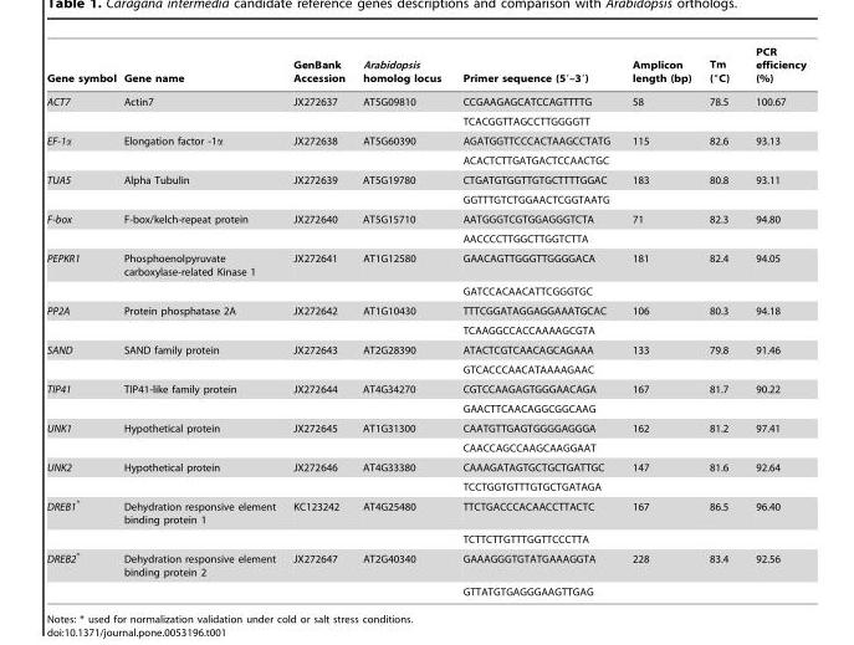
<table><thead><tr><td>Gene symbol</td><td>Gene name</td><td>GenBank Accession</td><td>Arabidopsis homolog locus</td><td>Primer sequence (5′–3′)</td><td>Amplicon length (bp)</td><td>Tm (°C)</td><td>PCR efficiency (%)</td></tr></thead><tbody><tr><td rowspan="2">ACT7</td><td>Actin7</td><td>JX272637</td><td>AT5G09810</td><td>CCGAAGAGCATCCAGTTTTG</td><td>58</td><td>78.5</td><td>100.67</td></tr><tr><td></td><td></td><td></td><td>TCACGGTTAGCCTTGGGGTT</td><td></td><td></td><td></td></tr><tr><td rowspan="2">EF-1α</td><td>Elongation factor -1α</td><td>JX272638</td><td>AT5G60390</td><td>AGATGGTTCCCACTAAGCCTATG</td><td>115</td><td>82.6</td><td>93.13</td></tr><tr><td></td><td></td><td></td><td>ACACTCTTGATGACTCCAACTGC</td><td></td><td></td><td></td></tr><tr><td rowspan="2">TUA5</td><td>Alpha Tubulin</td><td>JX272639</td><td>AT5G19780</td><td>CTGATGTGGTTGTGCTTTTGGAC</td><td>183</td><td>80.8</td><td>93.11</td></tr><tr><td></td><td></td><td></td><td>GGTTTGTCTGGAACTCGGTAATG</td><td></td><td></td><td></td></tr><tr><td rowspan="2">F-box</td><td>F-box/kelch-repeat protein</td><td>JX272640</td><td>AT5G15710</td><td>AATGGGTCGTGGAGGGTCTA</td><td>71</td><td>82.3</td><td>94.80</td></tr><tr><td></td><td></td><td></td><td>AACCCCTTGGCTTGGTCTTA</td><td></td><td></td><td></td></tr><tr><td rowspan="2">PEPKR1</td><td>Phosphoenolpyruvate carboxylase-related Kinase 1</td><td>JX272641</td><td>AT1G12580</td><td>GAACAGTTGGGTTGGGGACA</td><td>181</td><td>82.4</td><td>94.05</td></tr><tr><td></td><td></td><td></td><td>GATCCACAACATTCGGGTGC</td><td></td><td></td><td></td></tr><tr><td rowspan="2">PP2A</td><td>Protein phosphatase 2A</td><td>JX272642</td><td>AT1G10430</td><td>TTTCGGATAGGAGGAAATGCAC</td><td>106</td><td>80.3</td><td>94.18</td></tr><tr><td></td><td></td><td></td><td>TCAAGGCCACCAAAAGCGTA</td><td></td><td></td><td></td></tr><tr><td rowspan="2">SAND</td><td>SAND family protein</td><td>JX272643</td><td>AT2G28390</td><td>ATACTCGTCAACAGCAGAAA</td><td>133</td><td>79.8</td><td>91.46</td></tr><tr><td></td><td></td><td></td><td>GTCACCCAACATAAAAGAAC</td><td></td><td></td><td></td></tr><tr><td rowspan="2">TIP41</td><td>TIP41-like family protein</td><td>JX272644</td><td>AT4G34270</td><td>CGTCCAAGAGTGGGAACAGA</td><td>167</td><td>81.7</td><td>90.22</td></tr><tr><td></td><td></td><td></td><td>GAACTTCAACAGGCGGCAAG</td><td></td><td></td><td></td></tr><tr><td rowspan="2">UNK1</td><td>Hypothetical protein</td><td>JX272645</td><td>AT1G31300</td><td>CAATGTTGAGTGGGGAGGGA</td><td>162</td><td>81.2</td><td>97.41</td></tr><tr><td></td><td></td><td></td><td>CAACCAGCCAAGCAAGGAAT</td><td></td><td></td><td></td></tr><tr><td rowspan="2">UNK2</td><td>Hypothetical protein</td><td>JX272646</td><td>AT4G33380</td><td>CAAAGATAGTGCTGCTGATTGC</td><td>147</td><td>81.6</td><td>92.64</td></tr><tr><td></td><td></td><td></td><td>TCCTGGTGTTTGTGCTGATAGA</td><td></td><td></td><td></td></tr><tr><td rowspan="2">DREB1*</td><td>Dehydration responsive element binding protein 1</td><td>KC123242</td><td>AT4G25480</td><td>TTCTGACCCACAACCTTACTC</td><td>167</td><td>86.5</td><td>96.40</td></tr><tr><td></td><td></td><td></td><td>TCTTCTTGTTTGGTTCCCTTA</td><td></td><td></td><td></td></tr><tr><td rowspan="2">DREB2*</td><td>Dehydration responsive element binding protein 2</td><td>JX272647</td><td>AT2G40340</td><td>GAAAGGGTGTATGAAAGGTA</td><td>228</td><td>83.4</td><td>92.56</td></tr><tr><td></td><td></td><td></td><td>GTTATGTGAGGGAAGTTGAG</td><td></td><td></td><td></td></tr></tbody></table>